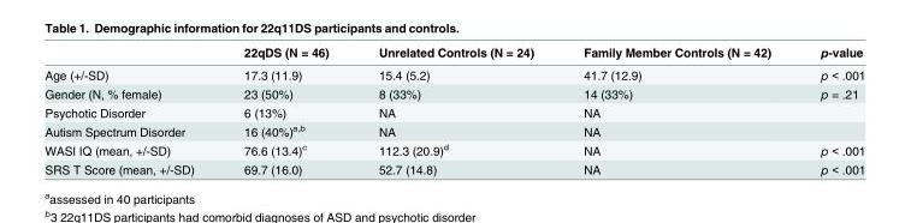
<table><thead><tr><td></td><td>22qDS (N = 46)</td><td>Unrelated Controls (N = 24)</td><td>Family Member Controls (N = 42)</td><td>p-value</td></tr></thead><tbody><tr><td>Age (+/-SD)</td><td>17.3 (11.9)</td><td>15.4 (5.2)</td><td>41.7 (12.9)</td><td>p &lt; .001</td></tr><tr><td>Gender (N, % female)</td><td>23 (50%)</td><td>8 (33%)</td><td>14 (33%)</td><td>p = .21</td></tr><tr><td>Psychotic Disorder</td><td>6 (13%)</td><td>NA</td><td>NA</td><td></td></tr><tr><td>Autism Spectrum Disorder</td><td>16 (40%)<sup>a,b</sup></td><td>NA</td><td>NA</td><td></td></tr><tr><td>WASI IQ (mean, +/-SD)</td><td>76.6 (13.4)<sup>c</sup></td><td>112.3 (20.9)<sup>d</sup></td><td>NA</td><td>p &lt; .001</td></tr><tr><td>SRS T Score (mean, +/-SD)</td><td>69.7 (16.0)</td><td>52.7 (14.8)</td><td>NA</td><td>p &lt; .001</td></tr></tbody></table>